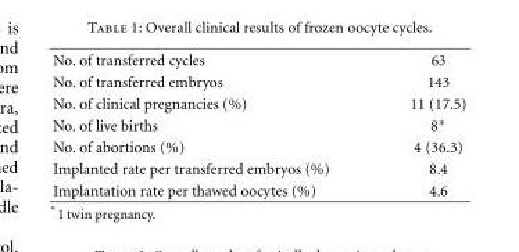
<table><tbody><tr><td>No. of transferred cycles</td><td>63</td></tr><tr><td>No. of transferred embryos</td><td>143</td></tr><tr><td>No. of clinical pregnancies (%)</td><td>11 (17.5)</td></tr><tr><td>No. of live births</td><td>8∗</td></tr><tr><td>No. of abortions (%)</td><td>4 (36.3)</td></tr><tr><td>Implanted rate per transferred embryos (%)</td><td>8.4</td></tr><tr><td>Implantation rate per thawed oocytes (%)</td><td>4.6</td></tr></tbody></table>